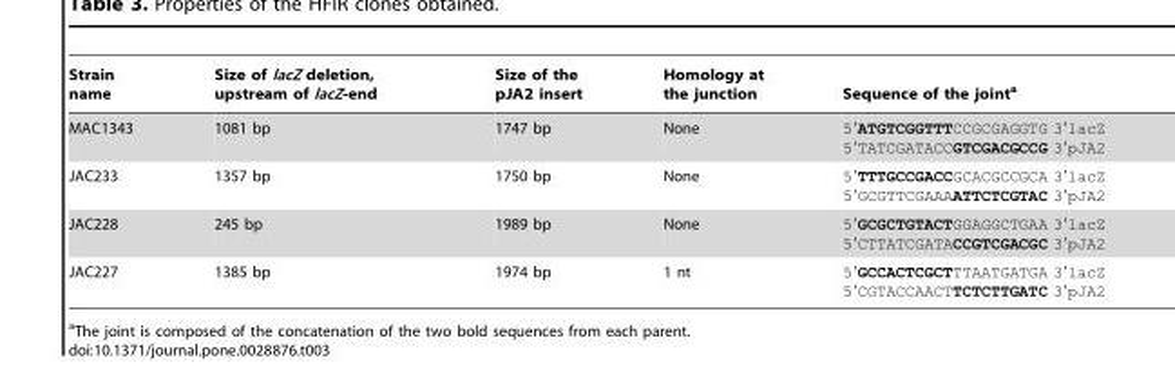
<table><thead><tr><td>Strain name</td><td>Size of lacZ deletion, upstream of lacZ-end</td><td>Size of the pJA2 insert</td><td>Homology at the junction</td><td>Sequence of the joint<sup>a</sup></td></tr></thead><tbody><tr><td>MAC1343</td><td>1081 bp</td><td>1747 bp</td><td>None</td><td>5′ATGTCGGTTTCCGCGAGGTG 3′lacZ 5′TATCGATACCGTCGACGCCG 3′pJA2</td></tr><tr><td>JAC233</td><td>1357 bp</td><td>1750 bp</td><td>None</td><td>5′TTTGCCGACCGCACGCCGCA 3′lacZ 5′GCGTTCGAAAATTCTCGTAC 3′pJA2</td></tr><tr><td>JAC228</td><td>245 bp</td><td>1989 bp</td><td>None</td><td>5′GCGCTGTACTGGAGGCTGAA 3′lacZ 5′CTTATCGATACCGTCGACGC 3′pJA2</td></tr><tr><td>JAC227</td><td>1385 bp</td><td>1974 bp</td><td>1 nt</td><td>5′GCCACTCGCTTTAATGATGA 3′lacZ 5′CGTACCAACTTCTCTTGATC 3′pJA2</td></tr></tbody></table>